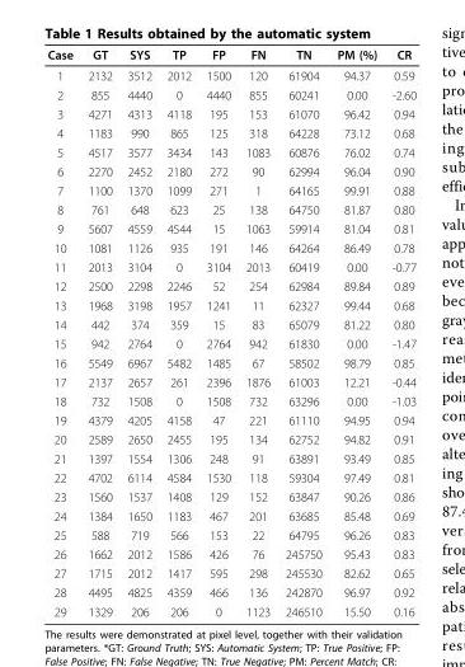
<table><thead><tr><td>Case</td><td>GT</td><td>SYS</td><td>TP</td><td>FP</td><td>FN</td><td>TN</td><td>PM (%)</td><td>CR</td></tr></thead><tbody><tr><td>1</td><td>2132</td><td>3512</td><td>2012</td><td>1500</td><td>120</td><td>61904</td><td>94.37</td><td>0.59</td></tr><tr><td>2</td><td>855</td><td>4440</td><td>0</td><td>4440</td><td>855</td><td>60241</td><td>0.00</td><td>-2.60</td></tr><tr><td>3</td><td>4271</td><td>4313</td><td>4118</td><td>195</td><td>153</td><td>61070</td><td>96.42</td><td>0.94</td></tr><tr><td>4</td><td>1183</td><td>990</td><td>865</td><td>125</td><td>318</td><td>64228</td><td>73.12</td><td>0.68</td></tr><tr><td>5</td><td>4517</td><td>3577</td><td>3434</td><td>143</td><td>1083</td><td>60876</td><td>76.02</td><td>0.74</td></tr><tr><td>6</td><td>2270</td><td>2452</td><td>2180</td><td>272</td><td>90</td><td>62994</td><td>96.04</td><td>0.90</td></tr><tr><td>7</td><td>1100</td><td>1370</td><td>1099</td><td>271</td><td>1</td><td>64165</td><td>99.91</td><td>0.88</td></tr><tr><td>8</td><td>761</td><td>648</td><td>623</td><td>25</td><td>138</td><td>64750</td><td>81.87</td><td>0.80</td></tr><tr><td>9</td><td>5607</td><td>4559</td><td>4544</td><td>15</td><td>1063</td><td>59914</td><td>81.04</td><td>0.81</td></tr><tr><td>10</td><td>1081</td><td>1126</td><td>935</td><td>191</td><td>146</td><td>64264</td><td>86.49</td><td>0.78</td></tr><tr><td>11</td><td>2013</td><td>3104</td><td>0</td><td>3104</td><td>2013</td><td>60419</td><td>0.00</td><td>-0.77</td></tr><tr><td>12</td><td>2500</td><td>2298</td><td>2246</td><td>52</td><td>254</td><td>62984</td><td>89.84</td><td>0.89</td></tr><tr><td>13</td><td>1968</td><td>3198</td><td>1957</td><td>1241</td><td>11</td><td>62327</td><td>99.44</td><td>0.68</td></tr><tr><td>14</td><td>442</td><td>374</td><td>359</td><td>15</td><td>83</td><td>65079</td><td>81.22</td><td>0.80</td></tr><tr><td>15</td><td>942</td><td>2764</td><td>0</td><td>2764</td><td>942</td><td>61830</td><td>0.00</td><td>-1.47</td></tr><tr><td>16</td><td>5549</td><td>6967</td><td>5482</td><td>1485</td><td>67</td><td>58502</td><td>98.79</td><td>0.85</td></tr><tr><td>17</td><td>2137</td><td>2657</td><td>261</td><td>2396</td><td>1876</td><td>61003</td><td>12.21</td><td>-0.44</td></tr><tr><td>18</td><td>732</td><td>1508</td><td>0</td><td>1508</td><td>732</td><td>63296</td><td>0.00</td><td>-1.03</td></tr><tr><td>19</td><td>4379</td><td>4205</td><td>4158</td><td>47</td><td>221</td><td>61110</td><td>94.95</td><td>0.94</td></tr><tr><td>20</td><td>2589</td><td>2650</td><td>2455</td><td>195</td><td>134</td><td>62752</td><td>94.82</td><td>0.91</td></tr><tr><td>21</td><td>1397</td><td>1554</td><td>1306</td><td>248</td><td>91</td><td>63891</td><td>93.49</td><td>0.85</td></tr><tr><td>22</td><td>4702</td><td>6114</td><td>4584</td><td>1530</td><td>118</td><td>59304</td><td>97.49</td><td>0.81</td></tr><tr><td>23</td><td>1560</td><td>1537</td><td>1408</td><td>129</td><td>152</td><td>63847</td><td>90.26</td><td>0.86</td></tr><tr><td>24</td><td>1384</td><td>1650</td><td>1183</td><td>467</td><td>201</td><td>63685</td><td>85.48</td><td>0.69</td></tr><tr><td>25</td><td>588</td><td>719</td><td>566</td><td>153</td><td>22</td><td>64795</td><td>96.26</td><td>0.83</td></tr><tr><td>26</td><td>1662</td><td>2012</td><td>1586</td><td>426</td><td>76</td><td>245750</td><td>95.43</td><td>0.83</td></tr><tr><td>27</td><td>1715</td><td>2012</td><td>1417</td><td>595</td><td>298</td><td>245530</td><td>82.62</td><td>0.65</td></tr><tr><td>28</td><td>4495</td><td>4825</td><td>4359</td><td>466</td><td>136</td><td>242870</td><td>96.97</td><td>0.92</td></tr><tr><td>29</td><td>1329</td><td>206</td><td>206</td><td>0</td><td>1123</td><td>246510</td><td>15.50</td><td>0.16</td></tr></tbody></table>